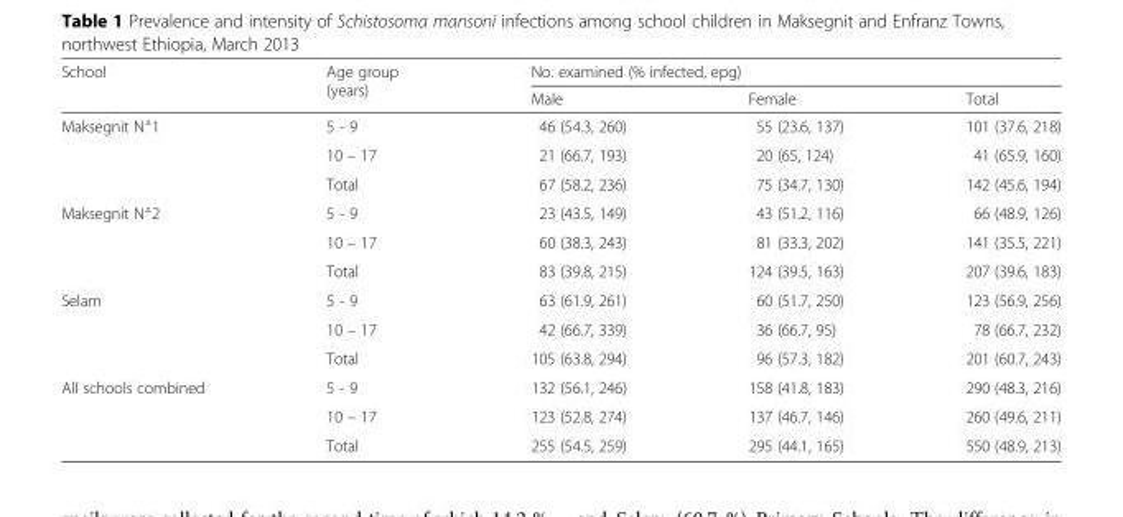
<table><thead><tr><td rowspan="2">School</td><td rowspan="2">Age group (years)</td><td colspan="3">No. examined (% infected, epg)</td></tr><tr><td>Male</td><td>Female</td><td>Total</td></tr></thead><tbody><tr><td rowspan="3">Maksegnit N<sup>⍛</sup>1</td><td>5 - 9</td><td>46 (54.3, 260)</td><td>55 (23.6, 137)</td><td>101 (37.6, 218)</td></tr><tr><td>10 – 17</td><td>21 (66.7, 193)</td><td>20 (65, 124)</td><td>41 (65.9, 160)</td></tr><tr><td>Total</td><td>67 (58.2, 236)</td><td>75 (34.7, 130)</td><td>142 (45.6, 194)</td></tr><tr><td rowspan="3">Maksegnit N<sup>⍛</sup>2</td><td>5 - 9</td><td>23 (43.5, 149)</td><td>43 (51.2, 116)</td><td>66 (48.9, 126)</td></tr><tr><td>10 – 17</td><td>60 (38.3, 243)</td><td>81 (33.3, 202)</td><td>141 (35.5, 221)</td></tr><tr><td>Total</td><td>83 (39.8, 215)</td><td>124 (39.5, 163)</td><td>207 (39.6, 183)</td></tr><tr><td rowspan="3">Selam</td><td>5 - 9</td><td>63 (61.9, 261)</td><td>60 (51.7, 250)</td><td>123 (56.9, 256)</td></tr><tr><td>10 – 17</td><td>42 (66.7, 339)</td><td>36 (66.7, 95)</td><td>78 (66.7, 232)</td></tr><tr><td>Total</td><td>105 (63.8, 294)</td><td>96 (57.3, 182)</td><td>201 (60.7, 243)</td></tr><tr><td rowspan="3">All schools combined</td><td>5 - 9</td><td>132 (56.1, 246)</td><td>158 (41.8, 183)</td><td>290 (48.3, 216)</td></tr><tr><td>10 – 17</td><td>123 (52.8, 274)</td><td>137 (46.7, 146)</td><td>260 (49.6, 211)</td></tr><tr><td>Total</td><td>255 (54.5, 259)</td><td>295 (44.1, 165)</td><td>550 (48.9, 213)</td></tr></tbody></table>